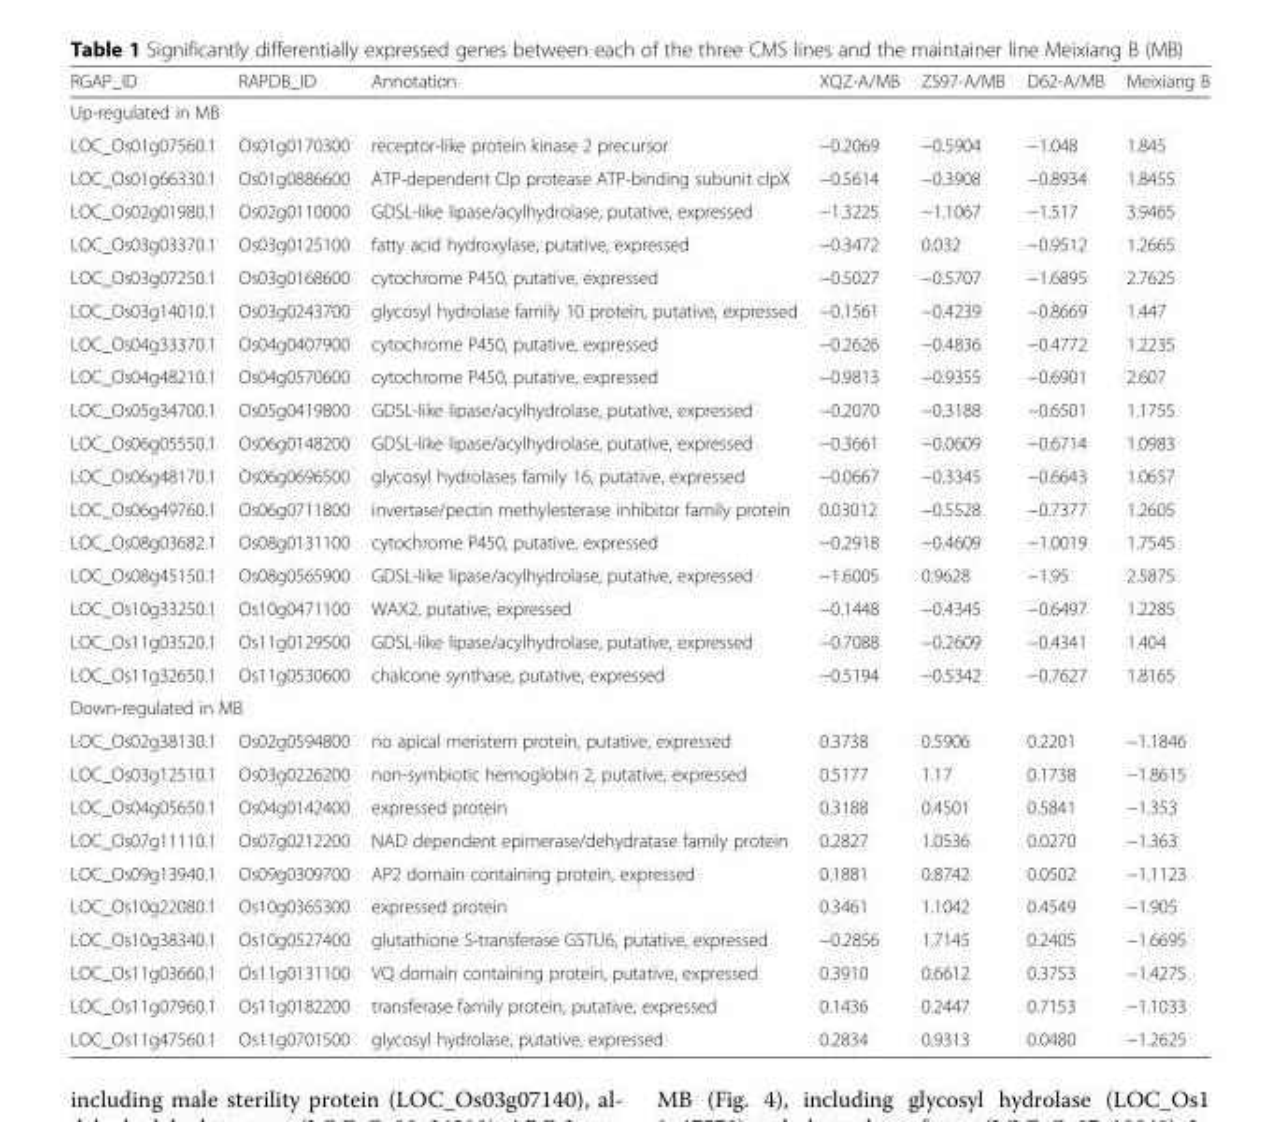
<table><thead><tr><td>RGAP_ID</td><td>RAPDB_ID</td><td>Annotation</td><td>XQZ-A/MB</td><td>ZS97-A/MB</td><td>D62-A/MB</td><td>Meixiang B</td></tr></thead><tbody><tr><td colspan="7">Up-regulated in MB</td></tr><tr><td>LOC_Os01g07560.1</td><td>Os01g0170300</td><td>receptor-like protein kinase 2 precursor</td><td>−0.2069</td><td>−0.5904</td><td>−1.048</td><td>1.845</td></tr><tr><td>LOC_Os01g66330.1</td><td>Os01g0886600</td><td>ATP-dependent Clp protease ATP-binding subunit clpX</td><td>−0.5614</td><td>−0.3908</td><td>−0.8934</td><td>1.8455</td></tr><tr><td>LOC_Os02g01980.1</td><td>Os02g0110000</td><td>GDSL-like lipase/acylhydrolase, putative, expressed</td><td>−1.3225</td><td>−1.1067</td><td>−1.517</td><td>3.9465</td></tr><tr><td>LOC_Os03g03370.1</td><td>Os03g0125100</td><td>fatty acid hydroxylase, putative, expressed</td><td>−0.3472</td><td>0.032</td><td>−0.9512</td><td>1.2665</td></tr><tr><td>LOC_Os03g07250.1</td><td>Os03g0168600</td><td>cytochrome P450, putative, expressed</td><td>−0.5027</td><td>−0.5707</td><td>−1.6895</td><td>2.7625</td></tr><tr><td>LOC_Os03g14010.1</td><td>Os03g0243700</td><td>glycosyl hydrolase family 10 protein, putative, expressed</td><td>−0.1561</td><td>−0.4239</td><td>−0.8669</td><td>1.447</td></tr><tr><td>LOC_Os04g33370.1</td><td>Os04g0407900</td><td>cytochrome P450, putative, expressed</td><td>−0.2626</td><td>−0.4836</td><td>−0.4772</td><td>1.2235</td></tr><tr><td>LOC_Os04g48210.1</td><td>Os04g0570600</td><td>cytochrome P450, putative, expressed</td><td>−0.9813</td><td>−0.9355</td><td>−0.6901</td><td>2.607</td></tr><tr><td>LOC_Os05g34700.1</td><td>Os05g0419800</td><td>GDSL-like lipase/acylhydrolase, putative, expressed</td><td>−0.2070</td><td>−0.3188</td><td>−0.6501</td><td>1.1755</td></tr><tr><td>LOC_Os06g05550.1</td><td>Os06g0148200</td><td>GDSL-like lipase/acylhydrolase, putative, expressed</td><td>−0.3661</td><td>−0.0609</td><td>−0.6714</td><td>1.0983</td></tr><tr><td>LOC_Os06g48170.1</td><td>Os06g0696500</td><td>glycosyl hydrolases family 16, putative, expressed</td><td>−0.0667</td><td>−0.3345</td><td>−0.6643</td><td>1.0657</td></tr><tr><td>LOC_Os06g49760.1</td><td>Os06g0711800</td><td>invertase/pectin methylesterase inhibitor family protein</td><td>0.03012</td><td>−0.5528</td><td>−0.7377</td><td>1.2605</td></tr><tr><td>LOC_Os08g03682.1</td><td>Os08g0131100</td><td>cytochrome P450, putative, expressed</td><td>−0.2918</td><td>−0.4609</td><td>−1.0019</td><td>1.7545</td></tr><tr><td>LOC_Os08g45150.1</td><td>Os08g0565900</td><td>GDSL-like lipase/acylhydrolase, putative, expressed</td><td>−1.6005</td><td>0.9628</td><td>−1.95</td><td>2.5875</td></tr><tr><td>LOC_Os10g33250.1</td><td>Os10g0471100</td><td>WAX2, putative, expressed</td><td>−0.1448</td><td>−0.4345</td><td>−0.6497</td><td>1.2285</td></tr><tr><td>LOC_Os11g03520.1</td><td>Os11g0129500</td><td>GDSL-like lipase/acylhydrolase, putative, expressed</td><td>−0.7088</td><td>−0.2609</td><td>−0.4341</td><td>1.404</td></tr><tr><td>LOC_Os11g32650.1</td><td>Os11g0530600</td><td>chalcone synthase, putative, expressed</td><td>−0.5194</td><td>−0.5342</td><td>−0.7627</td><td>1.8165</td></tr><tr><td colspan="7">Down-regulated in MB</td></tr><tr><td>LOC_Os02g38130.1</td><td>Os02g0594800</td><td>no apical meristem protein, putative, expressed</td><td>0.3738</td><td>0.5906</td><td>0.2201</td><td>−1.1846</td></tr><tr><td>LOC_Os03g12510.1</td><td>Os03g0226200</td><td>non-symbiotic hemoglobin 2, putative, expressed</td><td>0.5177</td><td>1.17</td><td>0.1738</td><td>−1.8615</td></tr><tr><td>LOC_Os04g05650.1</td><td>Os04g0142400</td><td>expressed protein</td><td>0.3188</td><td>0.4501</td><td>0.5841</td><td>−1.353</td></tr><tr><td>LOC_Os07g11110.1</td><td>Os07g0212200</td><td>NAD dependent epimerase/dehydratase family protein</td><td>0.2827</td><td>1.0536</td><td>0.0270</td><td>−1.363</td></tr><tr><td>LOC_Os09g13940.1</td><td>Os09g0309700</td><td>AP2 domain containing protein, expressed</td><td>0.1881</td><td>0.8742</td><td>0.0502</td><td>−1.1123</td></tr><tr><td>LOC_Os10g22080.1</td><td>Os10g0365300</td><td>expressed protein</td><td>0.3461</td><td>1.1042</td><td>0.4549</td><td>−1.905</td></tr><tr><td>LOC_Os10g38340.1</td><td>Os10g0527400</td><td>glutathione S-transferase GSTU6, putative, expressed</td><td>−0.2856</td><td>1.7145</td><td>0.2405</td><td>−1.6695</td></tr><tr><td>LOC_Os11g03660.1</td><td>Os11g0131100</td><td>VQ domain containing protein, putative, expressed</td><td>0.3910</td><td>0.6612</td><td>0.3753</td><td>−1.4275</td></tr><tr><td>LOC_Os11g07960.1</td><td>Os11g0182200</td><td>transferase family protein, putative, expressed</td><td>0.1436</td><td>0.2447</td><td>0.7153</td><td>−1.1033</td></tr><tr><td>LOC_Os11g47560.1</td><td>Os11g0701500</td><td>glycosyl hydrolase, putative, expressed</td><td>0.2834</td><td>0.9313</td><td>0.0480</td><td>−1.2625</td></tr></tbody></table>